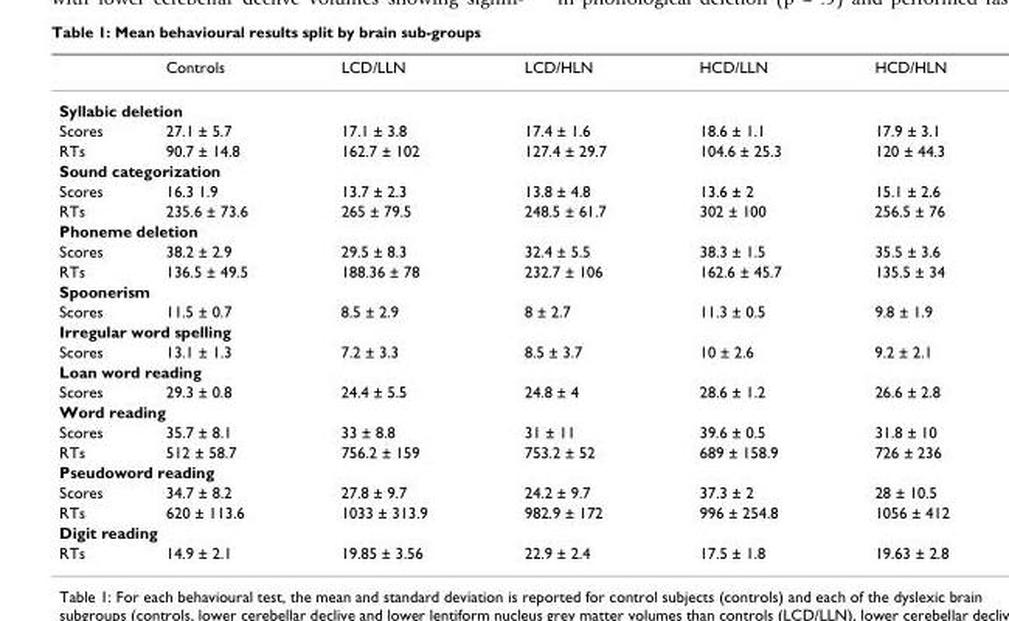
<table><thead><tr><td></td><td>Controls</td><td>LCD/LLN</td><td>LCD/HLN</td><td>HCD/LLN</td><td>HCD/HLN</td></tr></thead><tbody><tr><td colspan="6">Syllabic deletion</td></tr><tr><td>Scores</td><td>27.1 ± 5.7</td><td>17.1 ± 3.8</td><td>17.4 ± 1.6</td><td>18.6 ± 1.1</td><td>17.9 ± 3.1</td></tr><tr><td>RTs</td><td>90.7 ± 14.8</td><td>162.7 ± 102</td><td>127.4 ± 29.7</td><td>104.6 ± 25.3</td><td>120 ± 44.3</td></tr><tr><td colspan="6">Sound categorization</td></tr><tr><td>Scores</td><td>16.3 1.9</td><td>13.7 ± 2.3</td><td>13.8 ± 4.8</td><td>13.6 ± 2</td><td>15.1 ± 2.6</td></tr><tr><td>RTs</td><td>235.6 ± 73.6</td><td>265 ± 79.5</td><td>248.5 ± 61.7</td><td>302 ± 100</td><td>256.5 ± 76</td></tr><tr><td colspan="6">Phoneme deletion</td></tr><tr><td>Scores</td><td>38.2 ± 2.9</td><td>29.5 ± 8.3</td><td>32.4 ± 5.5</td><td>38.3 ± 1.5</td><td>35.5 ± 3.6</td></tr><tr><td>RTs</td><td>136.5 ± 49.5</td><td>188.36 ± 78</td><td>232.7 ± 106</td><td>162.6 ± 45.7</td><td>135.5 ± 34</td></tr><tr><td colspan="6">Spoonerism</td></tr><tr><td>Scores</td><td>11.5 ± 0.7</td><td>8.5 ± 2.9</td><td>8 ± 2.7</td><td>11.3 ± 0.5</td><td>9.8 ± 1.9</td></tr><tr><td colspan="6">Irregular word spelling</td></tr><tr><td>Scores</td><td>13.1 ± 1.3</td><td>7.2 ± 3.3</td><td>8.5 ± 3.7</td><td>10 ± 2.6</td><td>9.2 ± 2.1</td></tr><tr><td colspan="6">Loan word reading</td></tr><tr><td>Scores</td><td>29.3 ± 0.8</td><td>24.4 ± 5.5</td><td>24.8 ± 4</td><td>28.6 ± 1.2</td><td>26.6 ± 2.8</td></tr><tr><td colspan="6">Word reading</td></tr><tr><td>Scores</td><td>35.7 ± 8.1</td><td>33 ± 8.8</td><td>31 ± 11</td><td>39.6 ± 0.5</td><td>31.8 ± 10</td></tr><tr><td>RTs</td><td>512 ± 58.7</td><td>756.2 ± 159</td><td>753.2 ± 52</td><td>689 ± 158.9</td><td>726 ± 236</td></tr><tr><td colspan="6">Pseudoword reading</td></tr><tr><td>Scores</td><td>34.7 ± 8.2</td><td>27.8 ± 9.7</td><td>24.2 ± 9.7</td><td>37.3 ± 2</td><td>28 ± 10.5</td></tr><tr><td>RTs</td><td>620 ± 113.6</td><td>1033 ± 313.9</td><td>982.9 ± 172</td><td>996 ± 254.8</td><td>1056 ± 412</td></tr><tr><td colspan="6">Digit reading</td></tr><tr><td>RTs</td><td>14.9 ± 2.1</td><td>19.85 ± 3.56</td><td>22.9 ± 2.4</td><td>17.5 ± 1.8</td><td>19.63 ± 2.8</td></tr></tbody></table>